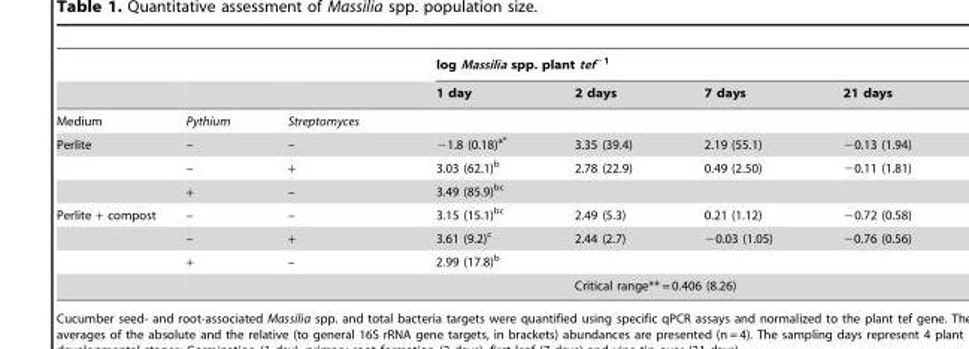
<table><thead><tr><td rowspan="2"></td><td rowspan="2"></td><td rowspan="2"></td><td colspan="4">log Massilia spp. plant tef<sup>−1</sup></td></tr><tr><td>1 day</td><td>2 days</td><td>7 days</td><td>21 days</td></tr></thead><tbody><tr><td>Medium</td><td>Pythium</td><td>Streptomyces</td><td colspan="4"></td></tr><tr><td rowspan="3">Perlite</td><td>–</td><td>–</td><td>−1.8 (0.18)<sup>a</sup>*</td><td>3.35 (39.4)</td><td>2.19 (55.1)</td><td>−0.13 (1.94)</td></tr><tr><td>–</td><td>+</td><td>3.03 (62.1)<sup>b</sup></td><td>2.78 (22.9)</td><td>0.49 (2.50)</td><td>−0.11 (1.81)</td></tr><tr><td>+</td><td>–</td><td>3.49 (85.9)<sup>bc</sup></td><td></td><td></td><td></td></tr><tr><td rowspan="4">Perlite + compost</td><td>–</td><td>–</td><td>3.15 (15.1)<sup>bc</sup></td><td>2.49 (5.3)</td><td>0.21 (1.12)</td><td>−0.72 (0.58)</td></tr><tr><td>–</td><td>+</td><td>3.61 (9.2)<sup>c</sup></td><td>2.44 (2.7)</td><td>−0.03 (1.05)</td><td>−0.76 (0.56)</td></tr><tr><td>+</td><td>–</td><td>2.99 (17.8)<sup>b</sup></td><td></td><td></td><td></td></tr><tr><td colspan="3"></td><td colspan="3">Critical range** = 0.406 (8.26)</td></tr></tbody></table>